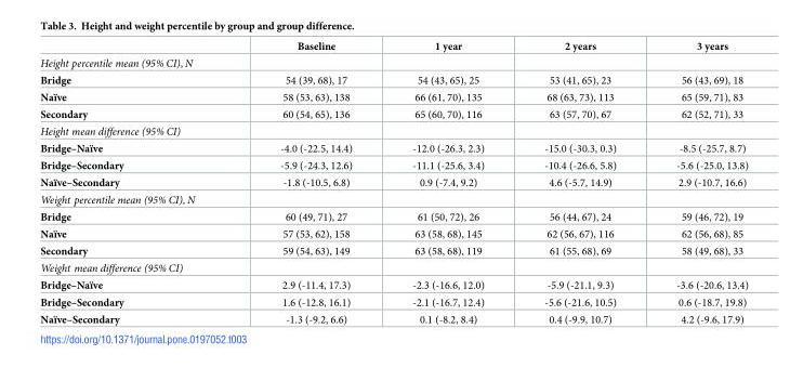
<table><thead><tr><td></td><td>Baseline</td><td>1 year</td><td>2 years</td><td>3 years</td></tr></thead><tbody><tr><td colspan="5">Height percentile mean (95% CI), N</td></tr><tr><td>Bridge</td><td>54 (39, 68), 17</td><td>54 (43, 65), 25</td><td>53 (41, 65), 23</td><td>56 (43, 69), 18</td></tr><tr><td>Naïve</td><td>58 (53, 63), 138</td><td>66 (61, 70), 135</td><td>68 (63, 73), 113</td><td>65 (59, 71), 83</td></tr><tr><td>Secondary</td><td>60 (54, 65), 136</td><td>65 (60, 70), 116</td><td>63 (57, 70), 67</td><td>62 (52, 71), 33</td></tr><tr><td colspan="5">Height mean difference (95% CI)</td></tr><tr><td>Bridge–Naïve</td><td>-4.0 (-22.5, 14.4)</td><td>-12.0 (-26.3, 2.3)</td><td>-15.0 (-30.3, 0.3)</td><td>-8.5 (-25.7, 8.7)</td></tr><tr><td>Bridge–Secondary</td><td>-5.9 (-24.3, 12.6)</td><td>-11.1 (-25.6, 3.4)</td><td>-10.4 (-26.6, 5.8)</td><td>-5.6 (-25.0, 13.8)</td></tr><tr><td>Naïve–Secondary</td><td>-1.8 (-10.5, 6.8)</td><td>0.9 (-7.4, 9.2)</td><td>4.6 (-5.7, 14.9)</td><td>2.9 (-10.7, 16.6)</td></tr><tr><td colspan="5">Weight percentile mean (95% CI), N</td></tr><tr><td>Bridge</td><td>60 (49, 71), 27</td><td>61 (50, 72), 26</td><td>56 (44, 67), 24</td><td>59 (46, 72), 19</td></tr><tr><td>Naïve</td><td>57 (53, 62), 158</td><td>63 (58, 68), 145</td><td>62 (56, 67), 116</td><td>62 (56, 68), 85</td></tr><tr><td>Secondary</td><td>59 (54, 63), 149</td><td>63 (58, 68), 119</td><td>61 (55, 68), 69</td><td>58 (49, 68), 33</td></tr><tr><td colspan="5">Weight mean difference (95% CI)</td></tr><tr><td>Bridge–Naïve</td><td>2.9 (-11.4, 17.3)</td><td>-2.3 (-16.6, 12.0)</td><td>-5.9 (-21.1, 9.3)</td><td>-3.6 (-20.6, 13.4)</td></tr><tr><td>Bridge–Secondary</td><td>1.6 (-12.8, 16.1)</td><td>-2.1 (-16.7, 12.4)</td><td>-5.6 (-21.6, 10.5)</td><td>0.6 (-18.7, 19.8)</td></tr><tr><td>Naïve–Secondary</td><td>-1.3 (-9.2, 6.6)</td><td>0.1 (-8.2, 8.4)</td><td>0.4 (-9.9, 10.7)</td><td>4.2 (-9.6, 17.9)</td></tr></tbody></table>